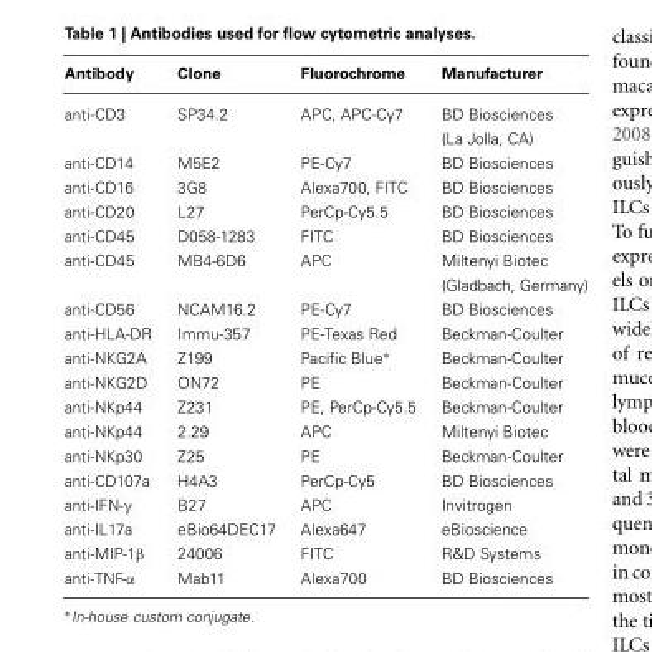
<table><thead><tr><td>Antibody</td><td>Clone</td><td>Fluorochrome</td><td>Manufacturer</td></tr></thead><tbody><tr><td>anti-CD3</td><td>SP34.2</td><td>APC, APC-Cy7</td><td>BD Biosciences (La Jolla, CA)</td></tr><tr><td>anti-CD14</td><td>M5E2</td><td>PE-Cy7</td><td>BD Biosciences</td></tr><tr><td>anti-CD16</td><td>3G8</td><td>Alexa700, FITC</td><td>BD Biosciences</td></tr><tr><td>anti-CD20</td><td>L27</td><td>PerCp-Cy5.5</td><td>BD Biosciences</td></tr><tr><td>anti-CD45</td><td>D058-1283</td><td>FITC</td><td>BD Biosciences</td></tr><tr><td>anti-CD45</td><td>MB4-6D6</td><td>APC</td><td>Miltenyi Biotec (Gladbach, Germany)</td></tr><tr><td>anti-CD56</td><td>NCAM16.2</td><td>PE-Cy7</td><td>BD Biosciences</td></tr><tr><td>anti-HLA-DR</td><td>Immu-357</td><td>PE-Texas Red</td><td>Beckman-Coulter</td></tr><tr><td>anti-NKG2A</td><td>Z199</td><td>Pacific Blue∗</td><td>Beckman-Coulter</td></tr><tr><td>anti-NKG2D</td><td>ON72</td><td>PE</td><td>Beckman-Coulter</td></tr><tr><td>anti-NKp44</td><td>Z231</td><td>PE, PerCp-Cy5.5</td><td>Beckman-Coulter</td></tr><tr><td>anti-NKp44</td><td>2.29</td><td>APC</td><td>Miltenyi Biotec</td></tr><tr><td>anti-NKp30</td><td>Z25</td><td>PE</td><td>Beckman-Coulter</td></tr><tr><td>anti-CD107a</td><td>H4A3</td><td>PerCp-Cy5</td><td>BD Biosciences</td></tr><tr><td>anti-IFN-γ</td><td>B27</td><td>APC</td><td>Invitrogen</td></tr><tr><td>anti-IL17a</td><td>eBio64DEC17</td><td>Alexa647</td><td>eBioscience</td></tr><tr><td>anti-MIP-1β</td><td>24006</td><td>FITC</td><td>R&amp;D Systems</td></tr><tr><td>anti-TNF-α</td><td>Mab11</td><td>Alexa700</td><td>BD Biosciences</td></tr></tbody></table>